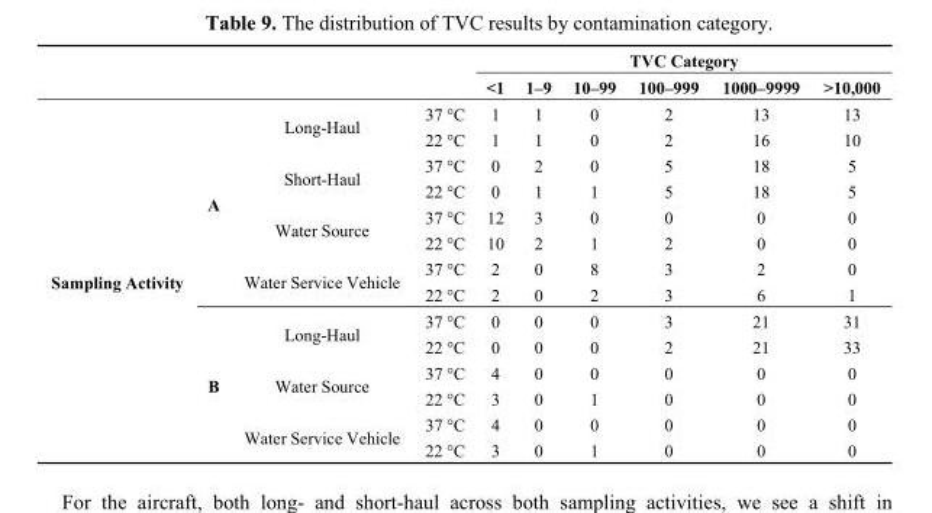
<table><thead><tr><td rowspan="2"></td><td rowspan="2"></td><td rowspan="2"></td><td rowspan="2"></td><td colspan="6">TVC Category</td></tr><tr><td>&lt;1</td><td>1–9</td><td>10–99</td><td>100–999</td><td>1000–9999</td><td>&gt;10,000</td></tr></thead><tbody><tr><td rowspan="14">Sampling Activity</td><td rowspan="8">A</td><td rowspan="2">Long-Haul</td><td>37 °C</td><td>1</td><td>1</td><td>0</td><td>2</td><td>13</td><td>13</td></tr><tr><td>22 °C</td><td>1</td><td>1</td><td>0</td><td>2</td><td>16</td><td>10</td></tr><tr><td rowspan="2">Short-Haul</td><td>37 °C</td><td>0</td><td>2</td><td>0</td><td>5</td><td>18</td><td>5</td></tr><tr><td>22 °C</td><td>0</td><td>1</td><td>1</td><td>5</td><td>18</td><td>5</td></tr><tr><td rowspan="2">Water Source</td><td>37 °C</td><td>12</td><td>3</td><td>0</td><td>0</td><td>0</td><td>0</td></tr><tr><td>22 °C</td><td>10</td><td>2</td><td>1</td><td>2</td><td>0</td><td>0</td></tr><tr><td rowspan="2">Water Service Vehicle</td><td>37 °C</td><td>2</td><td>0</td><td>8</td><td>3</td><td>2</td><td>0</td></tr><tr><td>22 °C</td><td>2</td><td>0</td><td>2</td><td>3</td><td>6</td><td>1</td></tr><tr><td rowspan="6">B</td><td rowspan="2">Long-Haul</td><td>37 °C</td><td>0</td><td>0</td><td>0</td><td>3</td><td>21</td><td>31</td></tr><tr><td>22 °C</td><td>0</td><td>0</td><td>0</td><td>2</td><td>21</td><td>33</td></tr><tr><td rowspan="2">Water Source</td><td>37 °C</td><td>4</td><td>0</td><td>0</td><td>0</td><td>0</td><td>0</td></tr><tr><td>22 °C</td><td>3</td><td>0</td><td>1</td><td>0</td><td>0</td><td>0</td></tr><tr><td rowspan="2">Water Service Vehicle</td><td>37 °C</td><td>4</td><td>0</td><td>0</td><td>0</td><td>0</td><td>0</td></tr><tr><td>22 °C</td><td>3</td><td>0</td><td>1</td><td>0</td><td>0</td><td>0</td></tr></tbody></table>